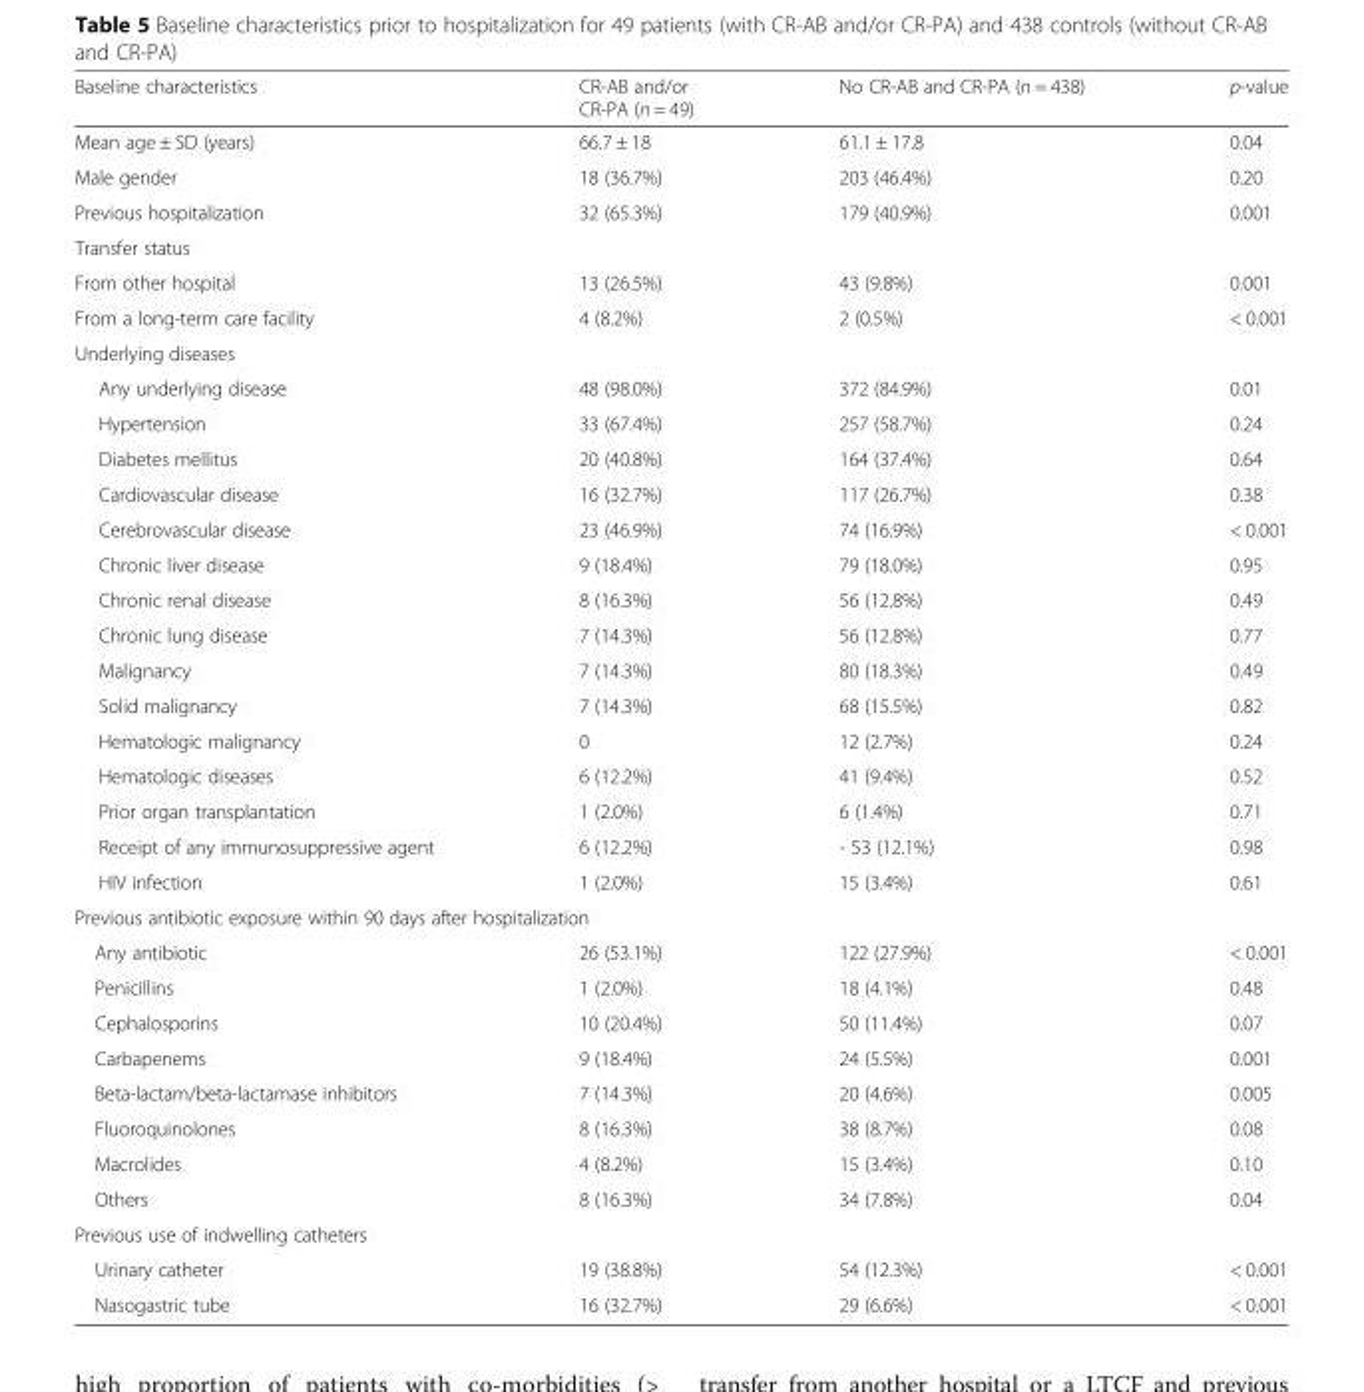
<table><thead><tr><td>Baseline characteristics</td><td>CR-AB and/or CR-PA (n = 49)</td><td>No CR-AB and CR-PA (n = 438)</td><td>p-value</td></tr></thead><tbody><tr><td>Mean age ± SD (years)</td><td>66.7 ± 18</td><td>61.1 ± 17.8</td><td>0.04</td></tr><tr><td>Male gender</td><td>18 (36.7%)</td><td>203 (46.4%)</td><td>0.20</td></tr><tr><td>Previous hospitalization</td><td>32 (65.3%)</td><td>179 (40.9%)</td><td>0.001</td></tr><tr><td colspan="4">Transfer status</td></tr><tr><td>From other hospital</td><td>13 (26.5%)</td><td>43 (9.8%)</td><td>0.001</td></tr><tr><td>From a long-term care facility</td><td>4 (8.2%)</td><td>2 (0.5%)</td><td>&lt; 0.001</td></tr><tr><td colspan="4">Underlying diseases</td></tr><tr><td>Any underlying disease</td><td>48 (98.0%)</td><td>372 (84.9%)</td><td>0.01</td></tr><tr><td>Hypertension</td><td>33 (67.4%)</td><td>257 (58.7%)</td><td>0.24</td></tr><tr><td>Diabetes mellitus</td><td>20 (40.8%)</td><td>164 (37.4%)</td><td>0.64</td></tr><tr><td>Cardiovascular disease</td><td>16 (32.7%)</td><td>117 (26.7%)</td><td>0.38</td></tr><tr><td>Cerebrovascular disease</td><td>23 (46.9%)</td><td>74 (16.9%)</td><td>&lt; 0.001</td></tr><tr><td>Chronic liver disease</td><td>9 (18.4%)</td><td>79 (18.0%)</td><td>0.95</td></tr><tr><td>Chronic renal disease</td><td>8 (16.3%)</td><td>56 (12.8%)</td><td>0.49</td></tr><tr><td>Chronic lung disease</td><td>7 (14.3%)</td><td>56 (12.8%)</td><td>0.77</td></tr><tr><td>Malignancy</td><td>7 (14.3%)</td><td>80 (18.3%)</td><td>0.49</td></tr><tr><td>Solid malignancy</td><td>7 (14.3%)</td><td>68 (15.5%)</td><td>0.82</td></tr><tr><td>Hematologic malignancy</td><td>0</td><td>12 (2.7%)</td><td>0.24</td></tr><tr><td>Hematologic diseases</td><td>6 (12.2%)</td><td>41 (9.4%)</td><td>0.52</td></tr><tr><td>Prior organ transplantation</td><td>1 (2.0%)</td><td>6 (1.4%)</td><td>0.71</td></tr><tr><td>Receipt of any immunosuppressive agent</td><td>6 (12.2%)</td><td>- 53 (12.1%)</td><td>0.98</td></tr><tr><td>HIV infection</td><td>1 (2.0%)</td><td>15 (3.4%)</td><td>0.61</td></tr><tr><td colspan="4">Previous antibiotic exposure within 90 days after hospitalization</td></tr><tr><td>Any antibiotic</td><td>26 (53.1%)</td><td>122 (27.9%)</td><td>&lt; 0.001</td></tr><tr><td>Penicillins</td><td>1 (2.0%)</td><td>18 (4.1%)</td><td>0.48</td></tr><tr><td>Cephalosporins</td><td>10 (20.4%)</td><td>50 (11.4%)</td><td>0.07</td></tr><tr><td>Carbapenems</td><td>9 (18.4%)</td><td>24 (5.5%)</td><td>0.001</td></tr><tr><td>Beta-lactam/beta-lactamase inhibitors</td><td>7 (14.3%)</td><td>20 (4.6%)</td><td>0.005</td></tr><tr><td>Fluoroquinolones</td><td>8 (16.3%)</td><td>38 (8.7%)</td><td>0.08</td></tr><tr><td>Macrolides</td><td>4 (8.2%)</td><td>15 (3.4%)</td><td>0.10</td></tr><tr><td>Others</td><td>8 (16.3%)</td><td>34 (7.8%)</td><td>0.04</td></tr><tr><td colspan="4">Previous use of indwelling catheters</td></tr><tr><td>Urinary catheter</td><td>19 (38.8%)</td><td>54 (12.3%)</td><td>&lt; 0.001</td></tr><tr><td>Nasogastric tube</td><td>16 (32.7%)</td><td>29 (6.6%)</td><td>&lt; 0.001</td></tr></tbody></table>